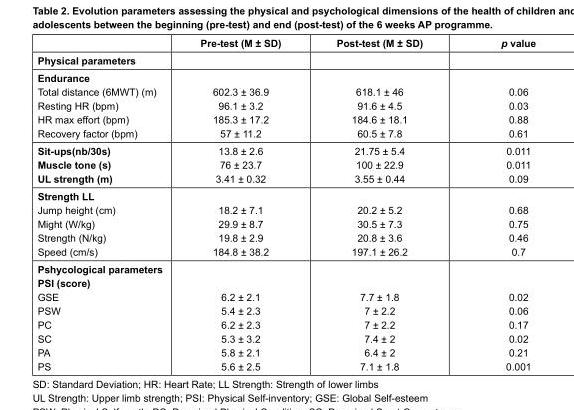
<table><thead><tr><td></td><td>Pre-test (M ± SD)</td><td>Post-test (M ± SD)</td><td>p value</td></tr></thead><tbody><tr><td colspan="4">Physical parameters</td></tr><tr><td>Endurance Total distance (6MWT) (m) Resting HR (bpm) HR max effort (bpm) Recovery factor (bpm)</td><td>602.3 ± 36.9 96.1 ± 3.2 185.3 ± 17.2 57 ± 11.2</td><td>618.1 ± 46 91.6 ± 4.5 184.6 ± 18.1 60.5 ± 7.8</td><td>0.06 0.03 0.88 0.61</td></tr><tr><td>Sit-ups(nb/30s) Muscle tone (s) UL strength (m)</td><td>13.8 ± 2.6 76 ± 23.7 3.41 ± 0.32</td><td>21.75 ± 5.4 100 ± 22.9 3.55 ± 0.44</td><td>0.011 0.011 0.09</td></tr><tr><td>Strength LL Jump height (cm) Might (W/kg) Strength (N/kg) Speed (cm/s)</td><td>18.2 ± 7.1 29.9 ± 8.7 19.8 ± 2.9 184.8 ± 38.2</td><td>20.2 ± 5.2 30.5 ± 7.3 20.8 ± 3.6 197.1 ± 26.2</td><td>0.68 0.75 0.46 0.7</td></tr><tr><td>Pshycological parameters PSI (score) GSE PSW PC SC PA PS</td><td>6.2 ± 2.1 5.4 ± 2.3 6.2 ± 2.3 5.3 ± 3.2 5.8 ± 2.1 5.6 ± 2.5</td><td>7.7 ± 1.8 7 ± 2.2 7 ± 2.2 7.4 ± 2 6.4 ± 2 7.1 ± 1.8</td><td>0.02 0.06 0.17 0.02 0.21 0.001</td></tr></tbody></table>